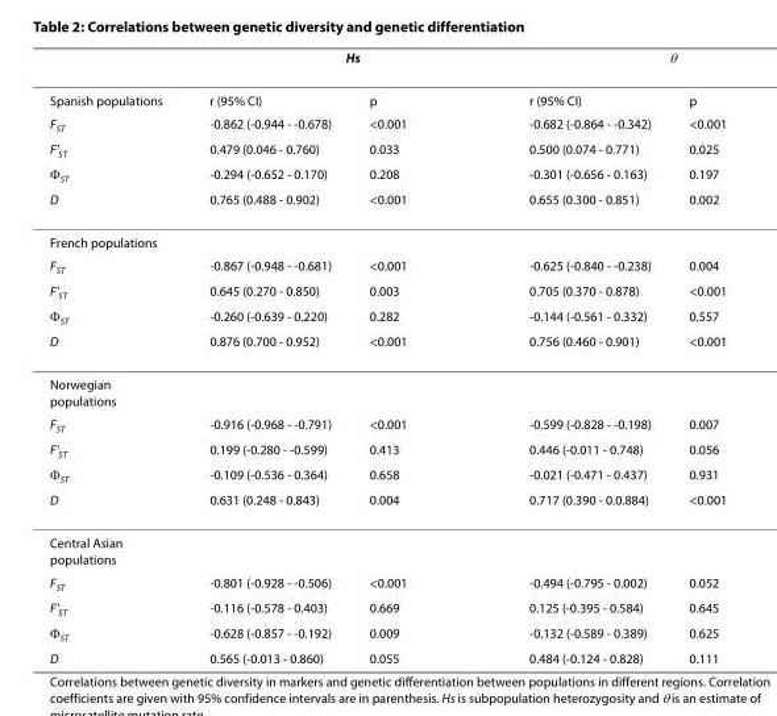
<table><thead><tr><td rowspan="2">Spanish populations</td><td colspan="2">Hs</td><td colspan="2">θ</td></tr><tr><td>r (95% CI)</td><td>p</td><td>r (95% CI)</td><td>p</td></tr></thead><tbody><tr><td>F<sub>ST</sub></td><td>-0.862 (-0.944 - -0.678)</td><td>&lt;0.001</td><td>-0.682 (-0.864 - -0.342)</td><td>&lt;0.001</td></tr><tr><td>F&#x27;<sub>ST</sub></td><td>0.479 (0.046 - 0.760)</td><td>0.033</td><td>0.500 (0.074 - 0.771)</td><td>0.025</td></tr><tr><td>Φ<sub>ST</sub></td><td>-0.294 (-0.652 - 0.170)</td><td>0.208</td><td>-0.301 (-0.656 - 0.163)</td><td>0.197</td></tr><tr><td>D</td><td>0.765 (0.488 - 0.902)</td><td>&lt;0.001</td><td>0.655 (0.300 - 0.851)</td><td>0.002</td></tr><tr><td colspan="5">French populations</td></tr><tr><td>F<sub>ST</sub></td><td>-0.867 (-0.948 - -0.681)</td><td>&lt;0.001</td><td>-0.625 (-0.840 - -0.238)</td><td>0.004</td></tr><tr><td>F&#x27;<sub>ST</sub></td><td>0.645 (0.270 - 0.850)</td><td>0.003</td><td>0.705 (0.370 - 0.878)</td><td>&lt;0.001</td></tr><tr><td>Φ<sub>ST</sub></td><td>-0.260 (-0.639 - 0.220)</td><td>0.282</td><td>-0.144 (-0.561 - 0.332)</td><td>0.557</td></tr><tr><td>D</td><td>0.876 (0.700 - 0.952)</td><td>&lt;0.001</td><td>0.756 (0.460 - 0.901)</td><td>&lt;0.001</td></tr><tr><td colspan="5">Norwegian populations</td></tr><tr><td>F<sub>ST</sub></td><td>-0.916 (-0.968 - -0.791)</td><td>&lt;0.001</td><td>-0.599 (-0.828 - -0.198)</td><td>0.007</td></tr><tr><td>F&#x27;<sub>ST</sub></td><td>0.199 (-0.280 - -0.599)</td><td>0.413</td><td>0.446 (-0.011 - 0.748)</td><td>0.056</td></tr><tr><td>Φ<sub>ST</sub></td><td>-0.109 (-0.536 - 0.364)</td><td>0.658</td><td>-0.021 (-0.471 - 0.437)</td><td>0.931</td></tr><tr><td>D</td><td>0.631 (0.248 - 0.843)</td><td>0.004</td><td>0.717 (0.390 - 0.0.884)</td><td>&lt;0.001</td></tr><tr><td colspan="5">Central Asian populations</td></tr><tr><td>F<sub>ST</sub></td><td>-0.801 (-0.928 - -0.506)</td><td>&lt;0.001</td><td>-0.494 (-0.795 - 0.002)</td><td>0.052</td></tr><tr><td>F&#x27;<sub>ST</sub></td><td>-0.116 (-0.578 - 0.403)</td><td>0.669</td><td>0.125 (-0.395 - 0.584)</td><td>0.645</td></tr><tr><td>Φ<sub>ST</sub></td><td>-0.628 (-0.857 - -0.192)</td><td>0.009</td><td>-0.132 (-0.589 - 0.389)</td><td>0.625</td></tr><tr><td>D</td><td>0.565 (-0.013 - 0.860)</td><td>0.055</td><td>0.484 (-0.124 - 0.828)</td><td>0.111</td></tr></tbody></table>